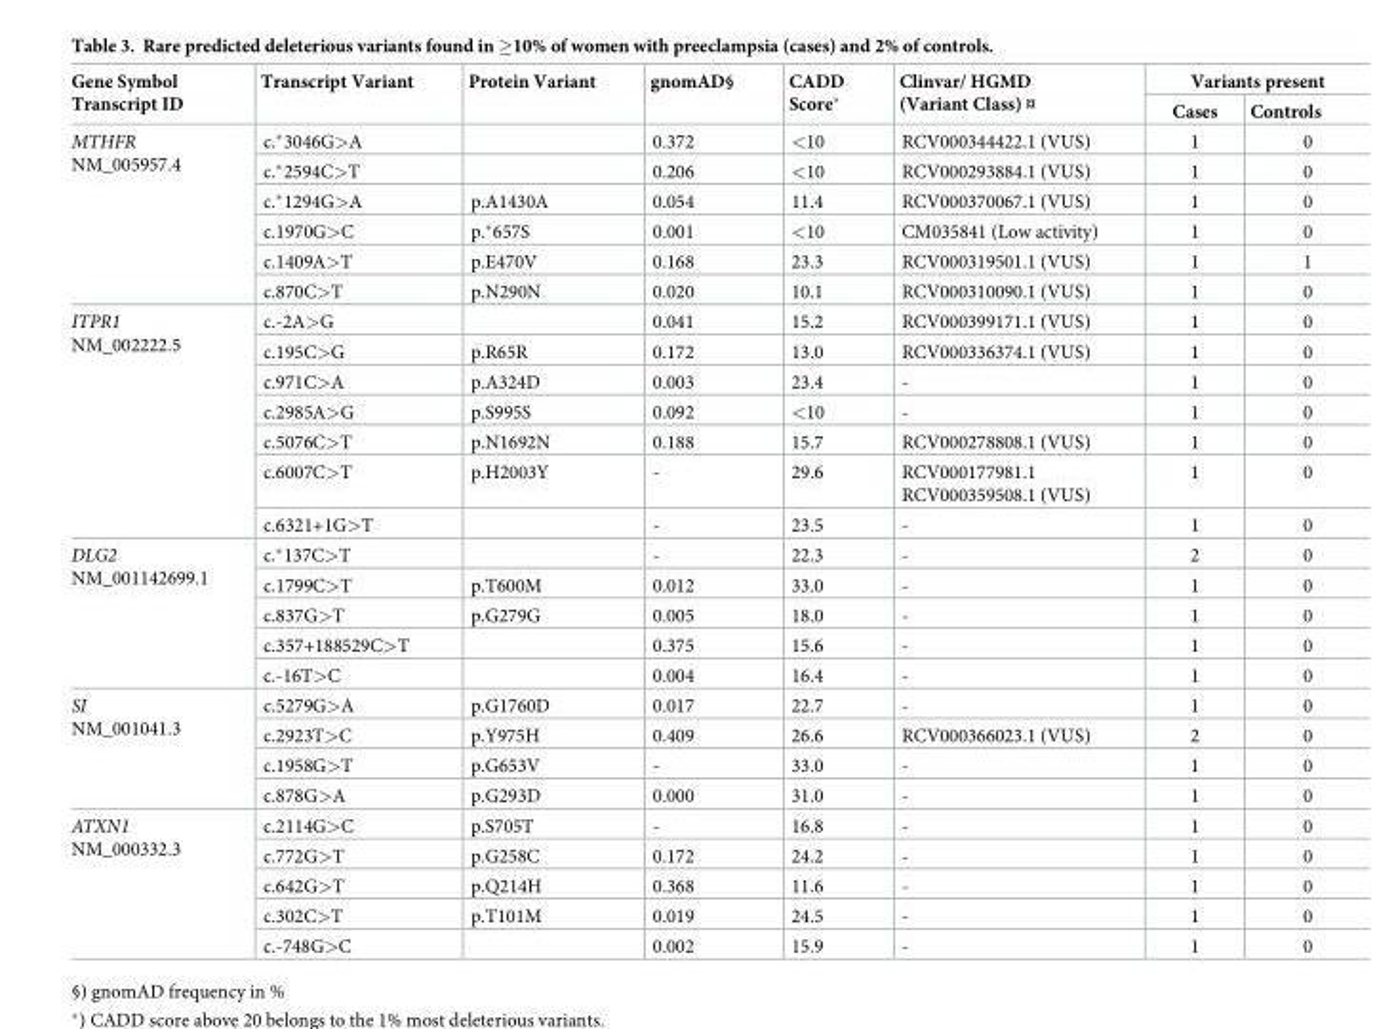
<table><thead><tr><td rowspan="2">Gene Symbol Transcript ID</td><td rowspan="2">Transcript Variant</td><td rowspan="2">Protein Variant</td><td rowspan="2">gnomAD§</td><td rowspan="2">CADD Score*</td><td rowspan="2">Clinvar/ HGMD (Variant Class) ¤</td><td colspan="2">Variants present</td></tr><tr><td>Cases</td><td>Controls</td></tr></thead><tbody><tr><td rowspan="6">MTHFR NM_005957.4</td><td>c.*3046G&gt;A</td><td></td><td>0.372</td><td>&lt;10</td><td>RCV000344422.1 (VUS)</td><td>1</td><td>0</td></tr><tr><td>c.*2594C&gt;T</td><td></td><td>0.206</td><td>&lt;10</td><td>RCV000293884.1 (VUS)</td><td>1</td><td>0</td></tr><tr><td>c.*1294G&gt;A</td><td>p.A1430A</td><td>0.054</td><td>11.4</td><td>RCV000370067.1 (VUS)</td><td>1</td><td>0</td></tr><tr><td>c.1970G&gt;C</td><td>p.*657S</td><td>0.001</td><td>&lt;10</td><td>CM035841 (Low activity)</td><td>1</td><td>0</td></tr><tr><td>c.1409A&gt;T</td><td>p.E470V</td><td>0.168</td><td>23.3</td><td>RCV000319501.1 (VUS)</td><td>1</td><td>1</td></tr><tr><td>c.870C&gt;T</td><td>p.N290N</td><td>0.020</td><td>10.1</td><td>RCV000310090.1 (VUS)</td><td>1</td><td>0</td></tr><tr><td rowspan="7">ITPR1 NM_002222.5</td><td>c.-2A&gt;G</td><td></td><td>0.041</td><td>15.2</td><td>RCV000399171.1 (VUS)</td><td>1</td><td>0</td></tr><tr><td>c.195C&gt;G</td><td>p.R65R</td><td>0.172</td><td>13.0</td><td>RCV000336374.1 (VUS)</td><td>1</td><td>0</td></tr><tr><td>c.971C&gt;A</td><td>p.A324D</td><td>0.003</td><td>23.4</td><td>-</td><td>1</td><td>0</td></tr><tr><td>c.2985A&gt;G</td><td>p.S995S</td><td>0.092</td><td>&lt;10</td><td>-</td><td>1</td><td>0</td></tr><tr><td>c.5076C&gt;T</td><td>p.N1692N</td><td>0.188</td><td>15.7</td><td>RCV000278808.1 (VUS)</td><td>1</td><td>0</td></tr><tr><td>c.6007C&gt;T</td><td>p.H2003Y</td><td>-</td><td>29.6</td><td>RCV000177981.1 RCV000359508.1 (VUS)</td><td>1</td><td>0</td></tr><tr><td>c.6321+1G&gt;T</td><td></td><td>-</td><td>23.5</td><td>-</td><td>1</td><td>0</td></tr><tr><td rowspan="5">DLG2 NM_001142699.1</td><td>c.*137C&gt;T</td><td></td><td>-</td><td>22.3</td><td>-</td><td>2</td><td>0</td></tr><tr><td>c.1799C&gt;T</td><td>p.T600M</td><td>0.012</td><td>33.0</td><td>-</td><td>1</td><td>0</td></tr><tr><td>c.837G&gt;T</td><td>p.G279G</td><td>0.005</td><td>18.0</td><td>-</td><td>1</td><td>0</td></tr><tr><td>c.357+188529C&gt;T</td><td></td><td>0.375</td><td>15.6</td><td>-</td><td>1</td><td>0</td></tr><tr><td>c.-16T&gt;C</td><td></td><td>0.004</td><td>16.4</td><td>-</td><td>1</td><td>0</td></tr><tr><td rowspan="4">SI NM_001041.3</td><td>c.5279G&gt;A</td><td>p.G1760D</td><td>0.017</td><td>22.7</td><td>-</td><td>1</td><td>0</td></tr><tr><td>c.2923T&gt;C</td><td>p.Y975H</td><td>0.409</td><td>26.6</td><td>RCV000366023.1 (VUS)</td><td>2</td><td>0</td></tr><tr><td>c.1958G&gt;T</td><td>p.G653V</td><td>-</td><td>33.0</td><td>-</td><td>1</td><td>0</td></tr><tr><td>c.878G&gt;A</td><td>p.G293D</td><td>0.000</td><td>31.0</td><td>-</td><td>1</td><td>0</td></tr><tr><td rowspan="5">ATXN1 NM_000332.3</td><td>c.2114G&gt;C</td><td>p.S705T</td><td>-</td><td>16.8</td><td>-</td><td>1</td><td>0</td></tr><tr><td>c.772G&gt;T</td><td>p.G258C</td><td>0.172</td><td>24.2</td><td>-</td><td>1</td><td>0</td></tr><tr><td>c.642G&gt;T</td><td>p.Q214H</td><td>0.368</td><td>11.6</td><td>-</td><td>1</td><td>0</td></tr><tr><td>c.302C&gt;T</td><td>p.T101M</td><td>0.019</td><td>24.5</td><td>-</td><td>1</td><td>0</td></tr><tr><td>c.-748G&gt;C</td><td></td><td>0.002</td><td>15.9</td><td>-</td><td>1</td><td>0</td></tr></tbody></table>